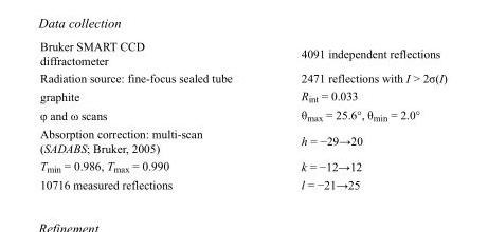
<table><tbody><tr><td>Bruker SMART CCD diffractometer</td><td>4091 independent reflections</td></tr><tr><td>Radiation source: fine-focus sealed tube</td><td>2471 reflections with I &gt; 2σ(I)</td></tr><tr><td>graphite</td><td>R<sub>int</sub> = 0.033</td></tr><tr><td>φ and ω scans</td><td>θ<sub>max</sub> = 25.6°, θ<sub>min</sub> = 2.0°</td></tr><tr><td>Absorption correction: multi-scan (SADABS; Bruker, 2005)</td><td>h = −29→20</td></tr><tr><td>T<sub>min</sub> = 0.986, T<sub>max</sub> = 0.990</td><td>k = −12→12</td></tr><tr><td>10716 measured reflections</td><td>l = −21→25</td></tr></tbody></table>